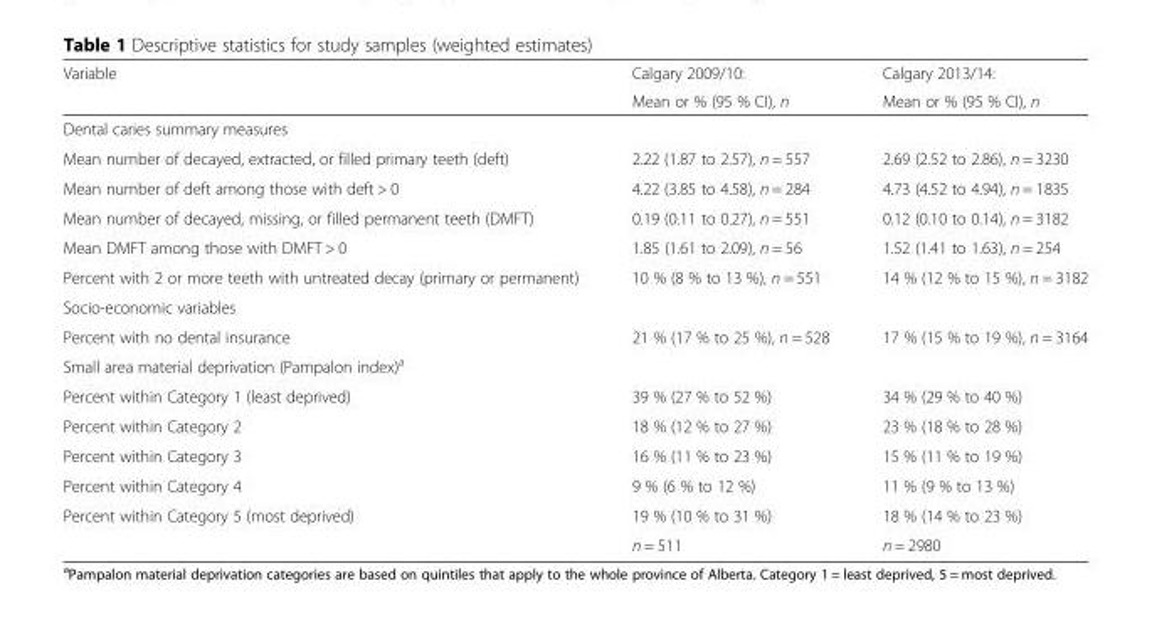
<table><thead><tr><td rowspan="2">Variable</td><td rowspan="2">Calgary 2009/10: Mean or % (95 % CI), n</td><td rowspan="2">Calgary 2013/14: Mean or % (95 % CI), n</td></tr><tr></tr></thead><tbody><tr><td colspan="3">Dental caries summary measures</td></tr><tr><td>Mean number of decayed, extracted, or filled primary teeth (deft)</td><td>2.22 (1.87 to 2.57), n = 557</td><td>2.69 (2.52 to 2.86), n = 3230</td></tr><tr><td>Mean number of deft among those with deft &gt; 0</td><td>4.22 (3.85 to 4.58), n = 284</td><td>4.73 (4.52 to 4.94), n = 1835</td></tr><tr><td>Mean number of decayed, missing, or filled permanent teeth (DMFT)</td><td>0.19 (0.11 to 0.27), n = 551</td><td>0.12 (0.10 to 0.14), n = 3182</td></tr><tr><td>Mean DMFT among those with DMFT &gt; 0</td><td>1.85 (1.61 to 2.09), n = 56</td><td>1.52 (1.41 to 1.63), n = 254</td></tr><tr><td>Percent with 2 or more teeth with untreated decay (primary or permanent)</td><td>10 % (8 % to 13 %), n = 551</td><td>14 % (12 % to 15 %), n = 3182</td></tr><tr><td colspan="3">Socio-economic variables</td></tr><tr><td>Percent with no dental insurance</td><td>21 % (17 % to 25 %), n = 528</td><td>17 % (15 % to 19 %), n = 3164</td></tr><tr><td colspan="3">Small area material deprivation (Pampalon index)<sup>a</sup></td></tr><tr><td>Percent within Category 1 (least deprived)</td><td>39 % (27 % to 52 %)</td><td>34 % (29 % to 40 %)</td></tr><tr><td>Percent within Category 2</td><td>18 % (12 % to 27 %)</td><td>23 % (18 % to 28 %)</td></tr><tr><td>Percent within Category 3</td><td>16 % (11 % to 23 %)</td><td>15 % (11 % to 19 %)</td></tr><tr><td>Percent within Category 4</td><td>9 % (6 % to 12 %)</td><td>11 % (9 % to 13 %)</td></tr><tr><td rowspan="2">Percent within Category 5 (most deprived)</td><td>19 % (10 % to 31 %)</td><td>18 % (14 % to 23 %)</td></tr><tr><td>n = 511</td><td>n = 2980</td></tr></tbody></table>